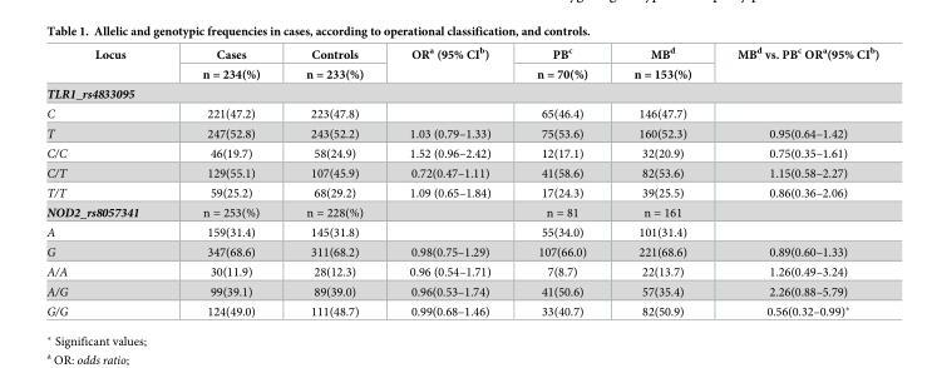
<table><thead><tr><td rowspan="2">Locus</td><td rowspan="2">Cases n = 234(%)</td><td rowspan="2">Controls n = 233(%)</td><td rowspan="2">OR<sup>a</sup> (95% CI<sup>b</sup>)</td><td rowspan="2">PB<sup>c</sup> n = 70(%)</td><td rowspan="2">MB<sup>d</sup> n = 153(%)</td><td rowspan="2">MB<sup>d</sup> vs. PB<sup>c</sup> OR<sup>a</sup>(95% CI<sup>b</sup>)</td></tr><tr></tr></thead><tbody><tr><td colspan="7">TLR1_rs4833095</td></tr><tr><td>C</td><td>221(47.2)</td><td>223(47.8)</td><td></td><td>65(46.4)</td><td>146(47.7)</td><td></td></tr><tr><td>T</td><td>247(52.8)</td><td>243(52.2)</td><td>1.03 (0.79–1.33)</td><td>75(53.6)</td><td>160(52.3)</td><td>0.95(0.64–1.42)</td></tr><tr><td>C/C</td><td>46(19.7)</td><td>58(24.9)</td><td>1.52 (0.96–2.42)</td><td>12(17.1)</td><td>32(20.9)</td><td>0.75(0.35–1.61)</td></tr><tr><td>C/T</td><td>129(55.1)</td><td>107(45.9)</td><td>0.72(0.47–1.11)</td><td>41(58.6)</td><td>82(53.6)</td><td>1.15(0.58–2.27)</td></tr><tr><td>T/T</td><td>59(25.2)</td><td>68(29.2)</td><td>1.09 (0.65–1.84)</td><td>17(24.3)</td><td>39(25.5)</td><td>0.86(0.36–2.06)</td></tr><tr><td>NOD2_rs8057341</td><td>n = 253(%)</td><td>n = 228(%)</td><td></td><td>n = 81</td><td>n = 161</td><td></td></tr><tr><td>A</td><td>159(31.4)</td><td>145(31.8)</td><td></td><td>55(34.0)</td><td>101(31.4)</td><td></td></tr><tr><td>G</td><td>347(68.6)</td><td>311(68.2)</td><td>0.98(0.75–1.29)</td><td>107(66.0)</td><td>221(68.6)</td><td>0.89(0.60–1.33)</td></tr><tr><td>A/A</td><td>30(11.9)</td><td>28(12.3)</td><td>0.96 (0.54–1.71)</td><td>7(8.7)</td><td>22(13.7)</td><td>1.26(0.49–3.24)</td></tr><tr><td>A/G</td><td>99(39.1)</td><td>89(39.0)</td><td>0.96(0.53–1.74)</td><td>41(50.6)</td><td>57(35.4)</td><td>2.26(0.88–5.79)</td></tr><tr><td>G/G</td><td>124(49.0)</td><td>111(48.7)</td><td>0.99(0.68–1.46)</td><td>33(40.7)</td><td>82(50.9)</td><td>0.56(0.32–0.99)*</td></tr></tbody></table>